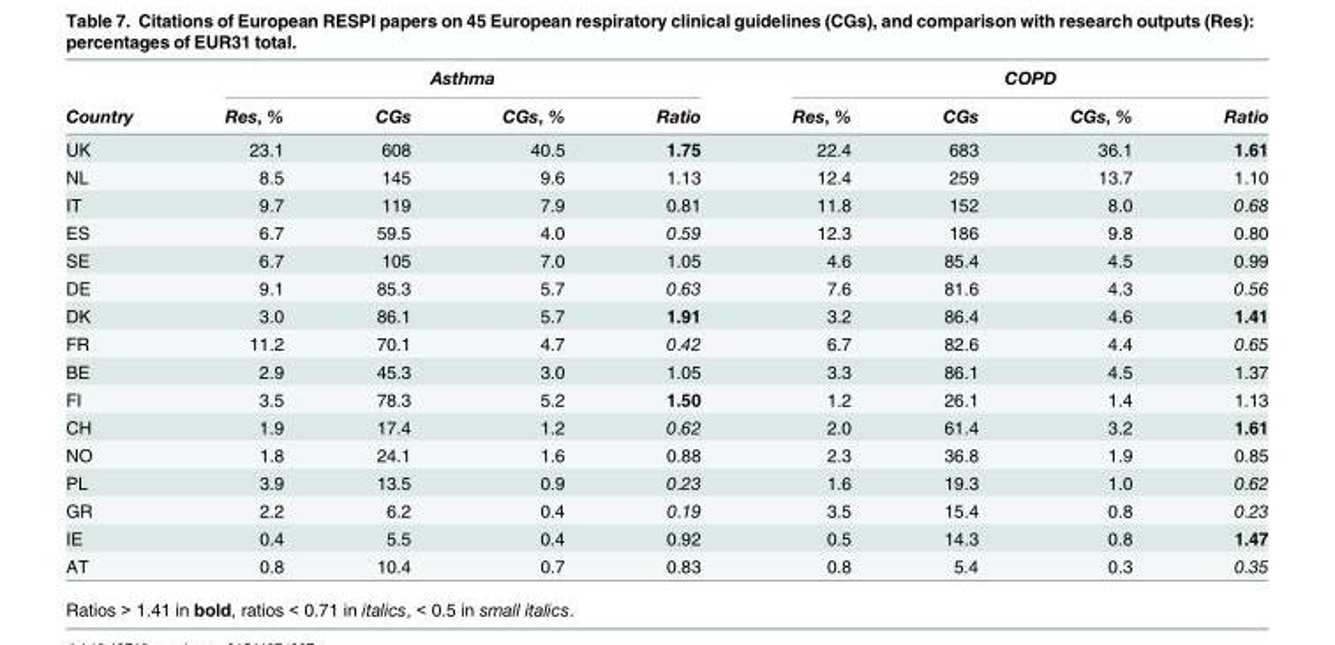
<table><thead><tr><td rowspan="2">Country</td><td colspan="4">Asthma</td><td colspan="4">COPD</td></tr><tr><td>Res, %</td><td>CGs</td><td>CGs, %</td><td>Ratio</td><td>Res, %</td><td>CGs</td><td>CGs, %</td><td>Ratio</td></tr></thead><tbody><tr><td>UK</td><td>23.1</td><td>608</td><td>40.5</td><td>1.75</td><td>22.4</td><td>683</td><td>36.1</td><td>1.61</td></tr><tr><td>NL</td><td>8.5</td><td>145</td><td>9.6</td><td>1.13</td><td>12.4</td><td>259</td><td>13.7</td><td>1.10</td></tr><tr><td>IT</td><td>9.7</td><td>119</td><td>7.9</td><td>0.81</td><td>11.8</td><td>152</td><td>8.0</td><td>0.68</td></tr><tr><td>ES</td><td>6.7</td><td>59.5</td><td>4.0</td><td>0.59</td><td>12.3</td><td>186</td><td>9.8</td><td>0.80</td></tr><tr><td>SE</td><td>6.7</td><td>105</td><td>7.0</td><td>1.05</td><td>4.6</td><td>85.4</td><td>4.5</td><td>0.99</td></tr><tr><td>DE</td><td>9.1</td><td>85.3</td><td>5.7</td><td>0.63</td><td>7.6</td><td>81.6</td><td>4.3</td><td>0.56</td></tr><tr><td>DK</td><td>3.0</td><td>86.1</td><td>5.7</td><td>1.91</td><td>3.2</td><td>86.4</td><td>4.6</td><td>1.41</td></tr><tr><td>FR</td><td>11.2</td><td>70.1</td><td>4.7</td><td>0.42</td><td>6.7</td><td>82.6</td><td>4.4</td><td>0.65</td></tr><tr><td>BE</td><td>2.9</td><td>45.3</td><td>3.0</td><td>1.05</td><td>3.3</td><td>86.1</td><td>4.5</td><td>1.37</td></tr><tr><td>FI</td><td>3.5</td><td>78.3</td><td>5.2</td><td>1.50</td><td>1.2</td><td>26.1</td><td>1.4</td><td>1.13</td></tr><tr><td>CH</td><td>1.9</td><td>17.4</td><td>1.2</td><td>0.62</td><td>2.0</td><td>61.4</td><td>3.2</td><td>1.61</td></tr><tr><td>NO</td><td>1.8</td><td>24.1</td><td>1.6</td><td>0.88</td><td>2.3</td><td>36.8</td><td>1.9</td><td>0.85</td></tr><tr><td>PL</td><td>3.9</td><td>13.5</td><td>0.9</td><td>0.23</td><td>1.6</td><td>19.3</td><td>1.0</td><td>0.62</td></tr><tr><td>GR</td><td>2.2</td><td>6.2</td><td>0.4</td><td>0.19</td><td>3.5</td><td>15.4</td><td>0.8</td><td>0.23</td></tr><tr><td>IE</td><td>0.4</td><td>5.5</td><td>0.4</td><td>0.92</td><td>0.5</td><td>14.3</td><td>0.8</td><td>1.47</td></tr><tr><td>AT</td><td>0.8</td><td>10.4</td><td>0.7</td><td>0.83</td><td>0.8</td><td>5.4</td><td>0.3</td><td>0.35</td></tr></tbody></table>